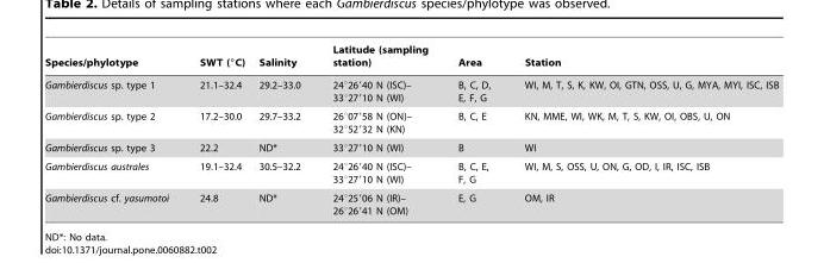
<table><thead><tr><td>Species/phylotype</td><td>SWT (°C)</td><td>Salinity</td><td>Latitude (sampling station)</td><td>Area</td><td>Station</td></tr></thead><tbody><tr><td>Gambierdiscus sp. type 1</td><td>21.1–32.4</td><td>29.2–33.0</td><td>24°26′40 N (ISC)– 33°27′10 N (WI)</td><td>B, C, D, E, F, G</td><td>WI, M, T, S, K, KW, OI, GTN, OSS, U, G, MYA, MYI, ISC, ISB</td></tr><tr><td>Gambierdiscus sp. type 2</td><td>17.2–30.0</td><td>29.7–33.2</td><td>26°07′58 N (ON)– 32°52′32 N (KN)</td><td>B, C, E</td><td>KN, MME, WI, WK, M, T, S, KW, OI, OBS, U, ON</td></tr><tr><td>Gambierdiscus sp. type 3</td><td>22.2</td><td>ND*</td><td>33°27′10 N (WI)</td><td>B</td><td>WI</td></tr><tr><td>Gambierdiscus australes</td><td>19.1–32.4</td><td>30.5–32.2</td><td>24°26′40 N (ISC)– 33°27′10 N (WI)</td><td>B, C, E, F, G</td><td>WI, M, S, OSS, U, ON, G, OD, I, IR, ISC, ISB</td></tr><tr><td>Gambierdiscus cf. yasumotoi</td><td>24.8</td><td>ND*</td><td>24°25′06 N (IR)– 26°26′41 N (OM)</td><td>E, G</td><td>OM, IR</td></tr></tbody></table>